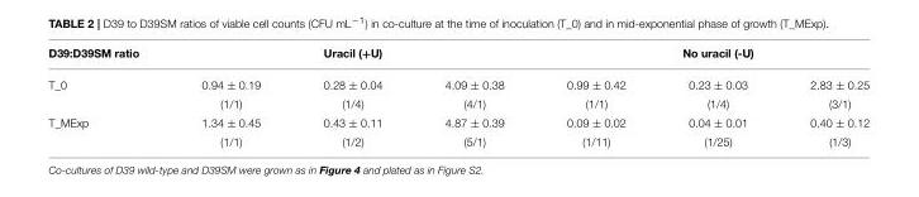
<table><thead><tr><td rowspan="2">D39:D39SM ratio T_0</td><td colspan="3">Uracil (+U)</td><td colspan="3">No uracil (-U)</td></tr><tr><td>0.94 ± 0.19</td><td>0.28 ± 0.04</td><td>4.09 ± 0.38</td><td>0.99 ± 0.42</td><td>0.23 ± 0.03</td><td>2.83 ± 0.25</td></tr></thead><tbody><tr><td></td><td>(1/1)</td><td>(1/4)</td><td>(4/1)</td><td>(1/1)</td><td>(1/4)</td><td>(3/1)</td></tr><tr><td rowspan="2">T_MExp</td><td>1.34 ± 0.45</td><td>0.43 ± 0.11</td><td>4.87 ± 0.39</td><td>0.09 ± 0.02</td><td>0.04 ± 0.01</td><td>0.40 ± 0.12</td></tr><tr><td>(1/1)</td><td>(1/2)</td><td>(5/1)</td><td>(1/11)</td><td>(1/25)</td><td>(1/3)</td></tr></tbody></table>